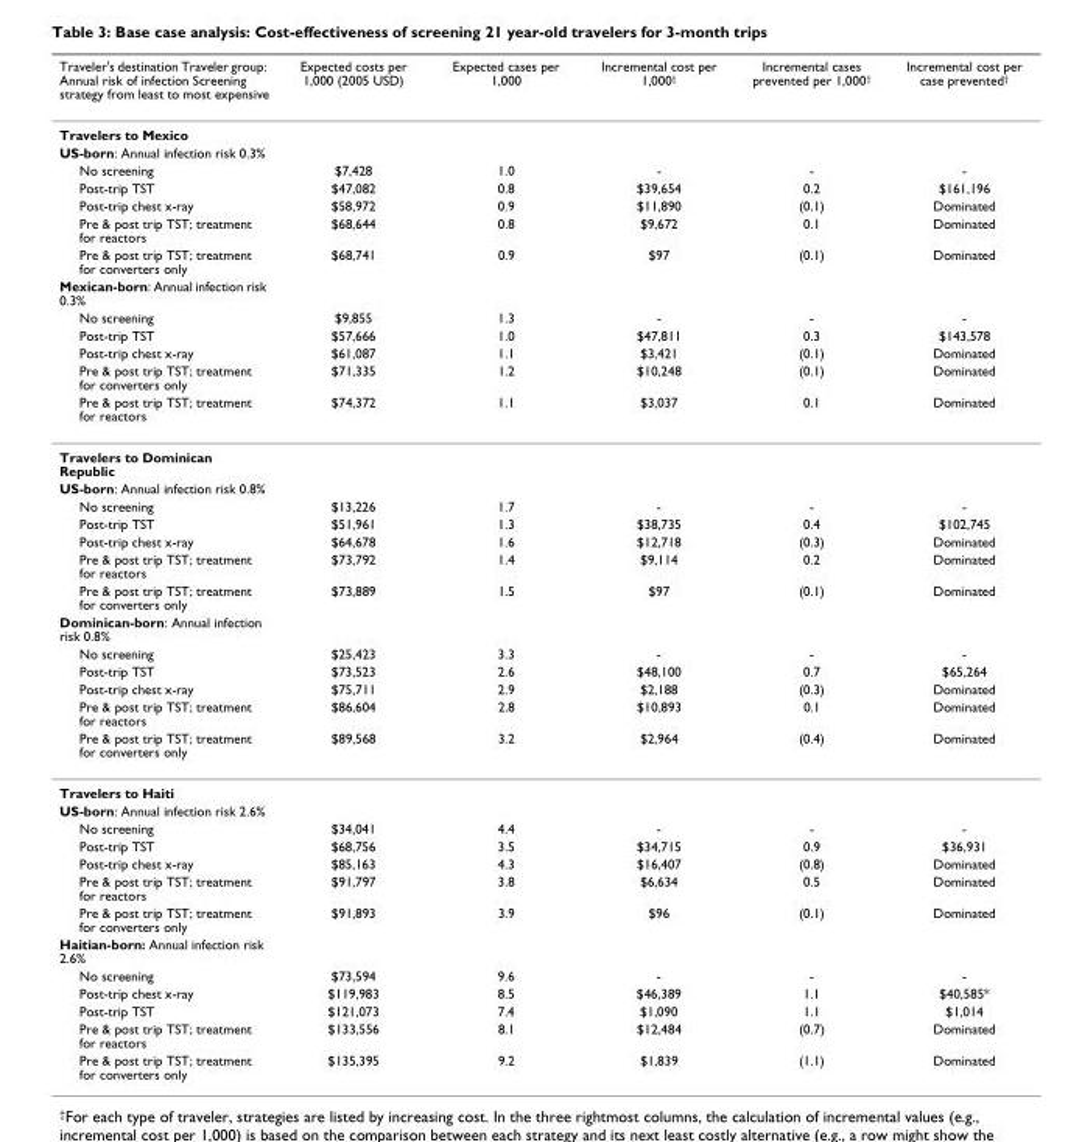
<table><thead><tr><td>Traveler&#x27;s destination Traveler group: Annual risk of infection Screening strategy from least to most expensive</td><td>Expected costs per 1,000 (2005 USD)</td><td>Expected cases per 1,000</td><td>Incremental cost per 1,000<sup>†</sup></td><td>Incremental cases prevented per 1,000<sup>†</sup></td><td>Incremental cost per case prevented<sup>†</sup></td></tr></thead><tbody><tr><td colspan="6">Travelers to Mexico</td></tr><tr><td colspan="6">US-born: Annual infection risk 0.3%</td></tr><tr><td>No screening</td><td>$7,428</td><td>1.0</td><td>-</td><td>-</td><td>-</td></tr><tr><td>Post-trip TST</td><td>$47,082</td><td>0.8</td><td>$39,654</td><td>0.2</td><td>$161,196</td></tr><tr><td>Post-trip chest x-ray</td><td>$58,972</td><td>0.9</td><td>$11,890</td><td>(0.1)</td><td>Dominated</td></tr><tr><td>Pre &amp; post trip TST; treatment for reactors</td><td>$68,644</td><td>0.8</td><td>$9,672</td><td>0.1</td><td>Dominated</td></tr><tr><td>Pre &amp; post trip TST; treatment for converters only</td><td>$68,741</td><td>0.9</td><td>$97</td><td>(0.1)</td><td>Dominated</td></tr><tr><td colspan="6">Mexican-born: Annual infection risk 0.3%</td></tr><tr><td>No screening</td><td>$9,855</td><td>1.3</td><td>-</td><td>-</td><td>-</td></tr><tr><td>Post-trip TST</td><td>$57,666</td><td>1.0</td><td>$47,811</td><td>0.3</td><td>$143,578</td></tr><tr><td>Post-trip chest x-ray</td><td>$61,087</td><td>1.1</td><td>$3,421</td><td>(0.1)</td><td>Dominated</td></tr><tr><td>Pre &amp; post trip TST; treatment for converters only</td><td>$71,335</td><td>1.2</td><td>$10,248</td><td>(0.1)</td><td>Dominated</td></tr><tr><td>Pre &amp; post trip TST; treatment for reactors</td><td>$74,372</td><td>1.1</td><td>$3,037</td><td>0.1</td><td>Dominated</td></tr><tr><td colspan="6">Travelers to Dominican Republic</td></tr><tr><td colspan="6">US-born: Annual infection risk 0.8%</td></tr><tr><td>No screening</td><td>$13,226</td><td>1.7</td><td>-</td><td>-</td><td>-</td></tr><tr><td>Post-trip TST</td><td>$51,961</td><td>1.3</td><td>$38,735</td><td>0.4</td><td>$102,745</td></tr><tr><td>Post-trip chest x-ray</td><td>$64,678</td><td>1.6</td><td>$12,718</td><td>(0.3)</td><td>Dominated</td></tr><tr><td>Pre &amp; post trip TST; treatment for reactors</td><td>$73,792</td><td>1.4</td><td>$9,114</td><td>0.2</td><td>Dominated</td></tr><tr><td>Pre &amp; post trip TST; treatment for converters only</td><td>$73,889</td><td>1.5</td><td>$97</td><td>(0.1)</td><td>Dominated</td></tr><tr><td colspan="6">Dominican-born: Annual infection risk 0.8%</td></tr><tr><td>No screening</td><td>$25,423</td><td>3.3</td><td>-</td><td>-</td><td>-</td></tr><tr><td>Post-trip TST</td><td>$73,523</td><td>2.6</td><td>$48,100</td><td>0.7</td><td>$65,264</td></tr><tr><td>Post-trip chest x-ray</td><td>$75,711</td><td>2.9</td><td>$2,188</td><td>(0.3)</td><td>Dominated</td></tr><tr><td>Pre &amp; post trip TST; treatment for reactors</td><td>$86,604</td><td>2.8</td><td>$10,893</td><td>0.1</td><td>Dominated</td></tr><tr><td>Pre &amp; post trip TST; treatment for converters only</td><td>$89,568</td><td>3.2</td><td>$2,964</td><td>(0.4)</td><td>Dominated</td></tr><tr><td colspan="6">Travelers to Haiti</td></tr><tr><td colspan="6">US-born: Annual infection risk 2.6%</td></tr><tr><td>No screening</td><td>$34,041</td><td>4.4</td><td>-</td><td>-</td><td>-</td></tr><tr><td>Post-trip TST</td><td>$68,756</td><td>3.5</td><td>$34,715</td><td>0.9</td><td>$36,931</td></tr><tr><td>Post-trip chest x-ray</td><td>$85,163</td><td>4.3</td><td>$16,407</td><td>(0.8)</td><td>Dominated</td></tr><tr><td>Pre &amp; post trip TST; treatment for reactors</td><td>$91,797</td><td>3.8</td><td>$6,634</td><td>0.5</td><td>Dominated</td></tr><tr><td>Pre &amp; post trip TST; treatment for converters only</td><td>$91,893</td><td>3.9</td><td>$96</td><td>(0.1)</td><td>Dominated</td></tr><tr><td colspan="6">Haitian-born: Annual infection risk 2.6%</td></tr><tr><td>No screening</td><td>$73,594</td><td>9.6</td><td>-</td><td>-</td><td>-</td></tr><tr><td>Post-trip chest x-ray</td><td>$119,983</td><td>8.5</td><td>$46,389</td><td>1.1</td><td>$40,585*</td></tr><tr><td>Post-trip TST</td><td>$121,073</td><td>7.4</td><td>$1,090</td><td>1.1</td><td>$1,014</td></tr><tr><td>Pre &amp; post trip TST; treatment for reactors</td><td>$133,556</td><td>8.1</td><td>$12,484</td><td>(0.7)</td><td>Dominated</td></tr><tr><td>Pre &amp; post trip TST; treatment for converters only</td><td>$135,395</td><td>9.2</td><td>$1,839</td><td>(1.1)</td><td>Dominated</td></tr></tbody></table>